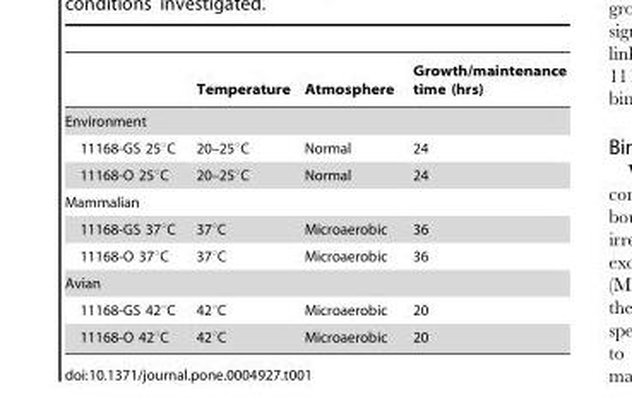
<table><thead><tr><td></td><td>Temperature</td><td>Atmosphere</td><td>Growth/maintenance time (hrs)</td></tr></thead><tbody><tr><td colspan="4">Environment</td></tr><tr><td>11168-GS 25°C</td><td>20–25°C</td><td>Normal</td><td>24</td></tr><tr><td>11168-O 25°C</td><td>20–25°C</td><td>Normal</td><td>24</td></tr><tr><td colspan="4">Mammalian</td></tr><tr><td>11168-GS 37°C</td><td>37°C</td><td>Microaerobic</td><td>36</td></tr><tr><td>11168-O 37°C</td><td>37°C</td><td>Microaerobic</td><td>36</td></tr><tr><td colspan="4">Avian</td></tr><tr><td>11168-GS 42°C</td><td>42°C</td><td>Microaerobic</td><td>20</td></tr><tr><td>11168-O 42°C</td><td>42°C</td><td>Microaerobic</td><td>20</td></tr></tbody></table>